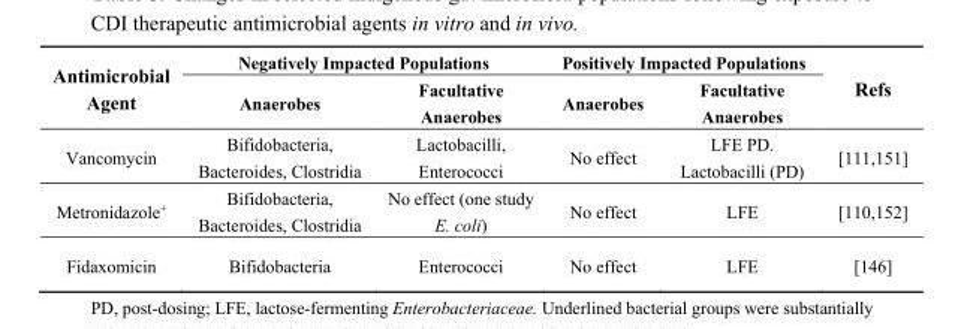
<table><thead><tr><td rowspan="2">Antimicrobial Agent</td><td colspan="2">Negatively Impacted Populations</td><td colspan="2">Positively Impacted Populations</td><td rowspan="2">Refs</td></tr><tr><td>Anaerobes</td><td>Facultative Anaerobes</td><td>Anaerobes</td><td>Facultative Anaerobes</td></tr></thead><tbody><tr><td>Vancomycin</td><td>Bifidobacteria, Bacteroides, Clostridia</td><td>Lactobacilli, Enterococci</td><td>No effect</td><td>LFE PD. Lactobacilli (PD)</td><td>[111,151]</td></tr><tr><td>Metronidazole<sup>+</sup></td><td>Bifidobacteria, Bacteroides, Clostridia</td><td>No effect (one study E. coli)</td><td>No effect</td><td>LFE</td><td>[110,152]</td></tr><tr><td>Fidaxomicin</td><td>Bifidobacteria</td><td>Enterococci</td><td>No effect</td><td>LFE</td><td>[146]</td></tr></tbody></table>